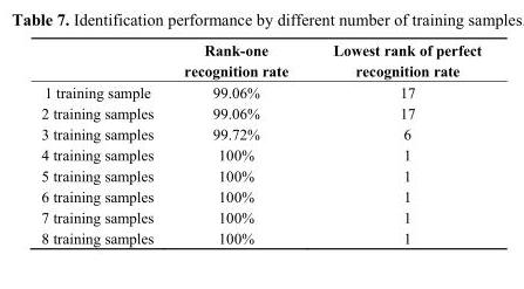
<table><thead><tr><td></td><td>Rank-one recognition rate</td><td>Lowest rank of perfect recognition rate</td></tr></thead><tbody><tr><td>1 training sample</td><td>99.06%</td><td>17</td></tr><tr><td>2 training samples</td><td>99.06%</td><td>17</td></tr><tr><td>3 training samples</td><td>99.72%</td><td>6</td></tr><tr><td>4 training samples</td><td>100%</td><td>1</td></tr><tr><td>5 training samples</td><td>100%</td><td>1</td></tr><tr><td>6 training samples</td><td>100%</td><td>1</td></tr><tr><td>7 training samples</td><td>100%</td><td>1</td></tr><tr><td>8 training samples</td><td>100%</td><td>1</td></tr></tbody></table>